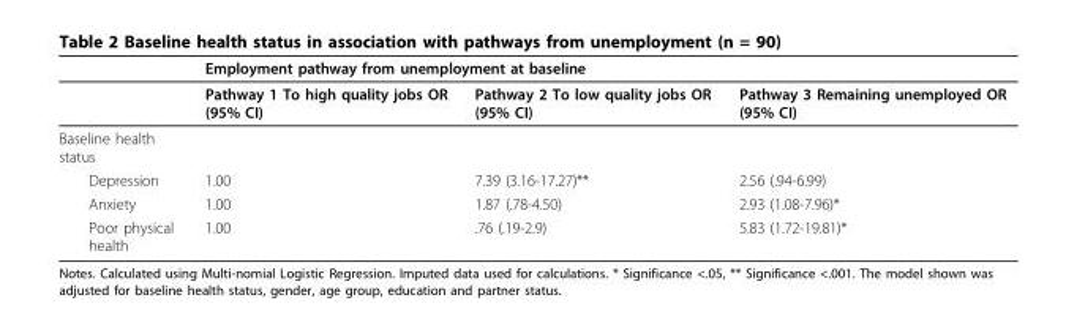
<table><thead><tr><td rowspan="2"></td><td colspan="3">Employment pathway from unemployment at baseline</td></tr><tr><td>Pathway 1 To high quality jobs OR (95% CI)</td><td>Pathway 2 To low quality jobs OR (95% CI)</td><td>Pathway 3 Remaining unemployed OR (95% CI)</td></tr></thead><tbody><tr><td colspan="4">Baseline health status</td></tr><tr><td>Depression</td><td>1.00</td><td>7.39 (3.16-17.27)**</td><td>2.56 (.94-6.99)</td></tr><tr><td>Anxiety</td><td>1.00</td><td>1.87 (.78-4.50)</td><td>2.93 (1.08-7.96)*</td></tr><tr><td>Poor physical health</td><td>1.00</td><td>.76 (.19-2.9)</td><td>5.83 (1.72-19.81)*</td></tr></tbody></table>